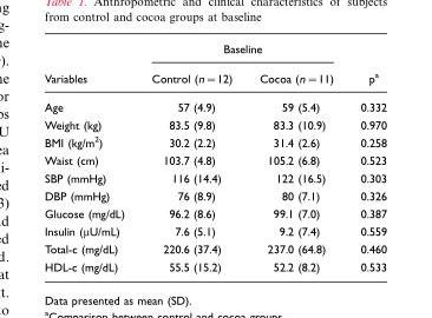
<table><thead><tr><td rowspan="2">Variables</td><td colspan="2">Baseline</td><td rowspan="2">p<sup>a</sup></td></tr><tr><td>Control (n=12)</td><td>Cocoa (n=11)</td></tr></thead><tbody><tr><td>Age</td><td>57 (4.9)</td><td>59 (5.4)</td><td>0.332</td></tr><tr><td>Weight (kg)</td><td>83.5 (9.8)</td><td>83.3 (10.9)</td><td>0.970</td></tr><tr><td>BMI (kg/m<sup>2</sup>)</td><td>30.2 (2.2)</td><td>31.4 (2.6)</td><td>0.258</td></tr><tr><td>Waist (cm)</td><td>103.7 (4.8)</td><td>105.2 (6.8)</td><td>0.523</td></tr><tr><td>SBP (mmHg)</td><td>116 (14.4)</td><td>122 (16.5)</td><td>0.303</td></tr><tr><td>DBP (mmHg)</td><td>76 (8.9)</td><td>80 (7.1)</td><td>0.326</td></tr><tr><td>Glucose (mg/dL)</td><td>96.2 (8.6)</td><td>99.1 (7.0)</td><td>0.387</td></tr><tr><td>Insulin (µU/mL)</td><td>7.6 (5.1)</td><td>9.2 (7.4)</td><td>0.559</td></tr><tr><td>Total-c (mg/dL)</td><td>220.6 (37.4)</td><td>237.0 (64.8)</td><td>0.460</td></tr><tr><td>HDL-c (mg/dL)</td><td>55.5 (15.2)</td><td>52.2 (8.2)</td><td>0.533</td></tr></tbody></table>